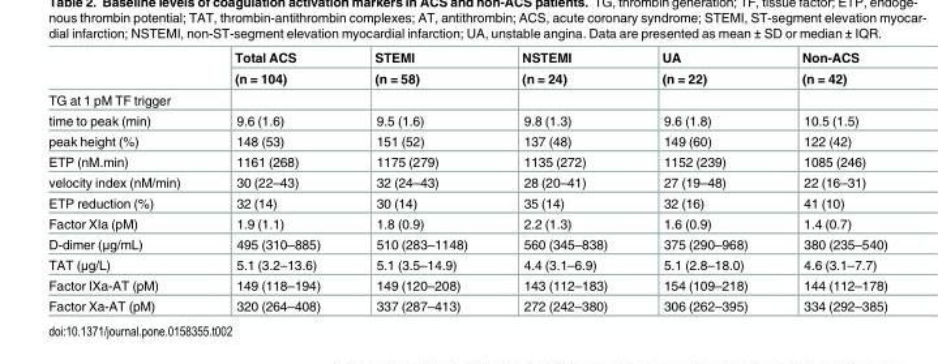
<table><thead><tr><td rowspan="2"></td><td rowspan="2">Total ACS (n = 104)</td><td rowspan="2">STEMI (n = 58)</td><td rowspan="2">NSTEMI (n = 24)</td><td rowspan="2">UA (n = 22)</td><td rowspan="2">Non-ACS (n = 42)</td></tr><tr></tr></thead><tbody><tr><td colspan="6">TG at 1 pM TF trigger</td></tr><tr><td>time to peak (min)</td><td>9.6 (1.6)</td><td>9.5 (1.6)</td><td>9.8 (1.3)</td><td>9.6 (1.8)</td><td>10.5 (1.5)</td></tr><tr><td>peak height (%)</td><td>148 (53)</td><td>151 (52)</td><td>137 (48)</td><td>149 (60)</td><td>122 (42)</td></tr><tr><td>ETP (nM.min)</td><td>1161 (268)</td><td>1175 (279)</td><td>1135 (272)</td><td>1152 (239)</td><td>1085 (246)</td></tr><tr><td>velocity index (nM/min)</td><td>30 (22–43)</td><td>32 (24–43)</td><td>28 (20–41)</td><td>27 (19–48)</td><td>22 (16–31)</td></tr><tr><td>ETP reduction (%)</td><td>32 (14)</td><td>30 (14)</td><td>35 (14)</td><td>32 (16)</td><td>41 (10)</td></tr><tr><td>Factor XIa (pM)</td><td>1.9 (1.1)</td><td>1.8 (0.9)</td><td>2.2 (1.3)</td><td>1.6 (0.9)</td><td>1.4 (0.7)</td></tr><tr><td>D-dimer (μg/mL)</td><td>495 (310–885)</td><td>510 (283–1148)</td><td>560 (345–838)</td><td>375 (290–968)</td><td>380 (235–540)</td></tr><tr><td>TAT (μg/L)</td><td>5.1 (3.2–13.6)</td><td>5.1 (3.5–14.9)</td><td>4.4 (3.1–6.9)</td><td>5.1 (2.8–18.0)</td><td>4.6 (3.1–7.7)</td></tr><tr><td>Factor IXa-AT (pM)</td><td>149 (118–194)</td><td>149 (120–208)</td><td>143 (112–183)</td><td>154 (109–218)</td><td>144 (112–178)</td></tr><tr><td>Factor Xa-AT (pM)</td><td>320 (264–408)</td><td>337 (287–413)</td><td>272 (242–380)</td><td>306 (262–395)</td><td>334 (292–385)</td></tr></tbody></table>